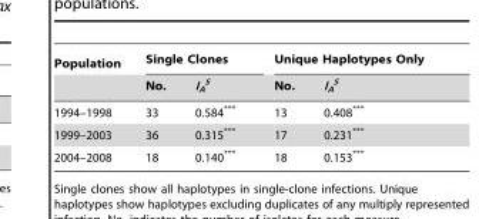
<table><thead><tr><td rowspan="2">Population</td><td colspan="2">Single Clones</td><td colspan="2">Unique Haplotypes Only</td></tr><tr><td>No.</td><td>I<sub>A</sub> <sup>S</sup></td><td>No.</td><td>I<sub>A</sub> <sup>S</sup></td></tr></thead><tbody><tr><td>1994–1998</td><td>33</td><td>0.584***</td><td>13</td><td>0.408***</td></tr><tr><td>1999–2003</td><td>36</td><td>0.315***</td><td>17</td><td>0.231***</td></tr><tr><td>2004–2008</td><td>18</td><td>0.140***</td><td>18</td><td>0.153***</td></tr></tbody></table>